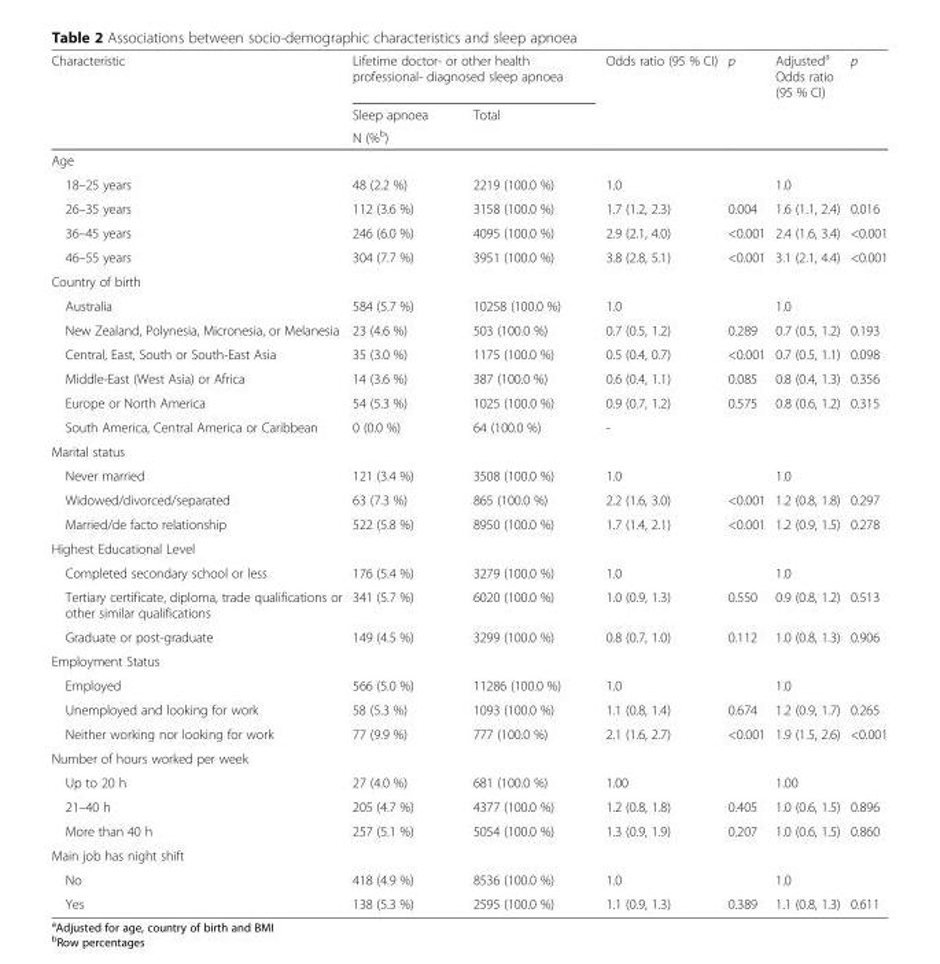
<table><thead><tr><td rowspan="3">Characteristic</td><td colspan="2">Lifetime doctor- or other health professional- diagnosed sleep apnoea</td><td rowspan="3">Odds ratio (95 % CI)</td><td rowspan="3">p</td><td rowspan="3">Adjusted<sup>a</sup> Odds ratio (95 % CI)</td><td rowspan="3">p</td></tr><tr><td>Sleep apnoea</td><td>Total</td></tr><tr><td colspan="2">N (%<sup>b</sup>)</td></tr></thead><tbody><tr><td colspan="7">Age</td></tr><tr><td>18–25 years</td><td>48 (2.2 %)</td><td>2219 (100.0 %)</td><td>1.0</td><td></td><td>1.0</td><td></td></tr><tr><td>26–35 years</td><td>112 (3.6 %)</td><td>3158 (100.0 %)</td><td>1.7 (1.2, 2.3)</td><td>0.004</td><td>1.6 (1.1, 2.4)</td><td>0.016</td></tr><tr><td>36–45 years</td><td>246 (6.0 %)</td><td>4095 (100.0 %)</td><td>2.9 (2.1, 4.0)</td><td>&lt;0.001</td><td>2.4 (1.6, 3.4)</td><td>&lt;0.001</td></tr><tr><td>46–55 years</td><td>304 (7.7 %)</td><td>3951 (100.0 %)</td><td>3.8 (2.8, 5.1)</td><td>&lt;0.001</td><td>3.1 (2.1, 4.4)</td><td>&lt;0.001</td></tr><tr><td colspan="7">Country of birth</td></tr><tr><td>Australia</td><td>584 (5.7 %)</td><td>10258 (100.0 %)</td><td>1.0</td><td></td><td>1.0</td><td></td></tr><tr><td>New Zealand, Polynesia, Micronesia, or Melanesia</td><td>23 (4.6 %)</td><td>503 (100.0 %)</td><td>0.7 (0.5, 1.2)</td><td>0.289</td><td>0.7 (0.5, 1.2)</td><td>0.193</td></tr><tr><td>Central, East, South or South-East Asia</td><td>35 (3.0 %)</td><td>1175 (100.0 %)</td><td>0.5 (0.4, 0.7)</td><td>&lt;0.001</td><td>0.7 (0.5, 1.1)</td><td>0.098</td></tr><tr><td>Middle-East (West Asia) or Africa</td><td>14 (3.6 %)</td><td>387 (100.0 %)</td><td>0.6 (0.4, 1.1)</td><td>0.085</td><td>0.8 (0.4, 1.3)</td><td>0.356</td></tr><tr><td>Europe or North America</td><td>54 (5.3 %)</td><td>1025 (100.0 %)</td><td>0.9 (0.7, 1.2)</td><td>0.575</td><td>0.8 (0.6, 1.2)</td><td>0.315</td></tr><tr><td>South America, Central America or Caribbean</td><td>0 (0.0 %)</td><td>64 (100.0 %)</td><td>-</td><td></td><td></td><td></td></tr><tr><td colspan="7">Marital status</td></tr><tr><td>Never married</td><td>121 (3.4 %)</td><td>3508 (100.0 %)</td><td>1.0</td><td></td><td>1.0</td><td></td></tr><tr><td>Widowed/divorced/separated</td><td>63 (7.3 %)</td><td>865 (100.0 %)</td><td>2.2 (1.6, 3.0)</td><td>&lt;0.001</td><td>1.2 (0.8, 1.8)</td><td>0.297</td></tr><tr><td>Married/de facto relationship</td><td>522 (5.8 %)</td><td>8950 (100.0 %)</td><td>1.7 (1.4, 2.1)</td><td>&lt;0.001</td><td>1.2 (0.9, 1.5)</td><td>0.278</td></tr><tr><td colspan="7">Highest Educational Level</td></tr><tr><td>Completed secondary school or less</td><td>176 (5.4 %)</td><td>3279 (100.0 %)</td><td>1.0</td><td></td><td>1.0</td><td></td></tr><tr><td>Tertiary certificate, diploma, trade qualifications or other similar qualifications</td><td>341 (5.7 %)</td><td>6020 (100.0 %)</td><td>1.0 (0.9, 1.3)</td><td>0.550</td><td>0.9 (0.8, 1.2)</td><td>0.513</td></tr><tr><td>Graduate or post-graduate</td><td>149 (4.5 %)</td><td>3299 (100.0 %)</td><td>0.8 (0.7, 1.0)</td><td>0.112</td><td>1.0 (0.8, 1.3)</td><td>0.906</td></tr><tr><td colspan="7">Employment Status</td></tr><tr><td>Employed</td><td>566 (5.0 %)</td><td>11286 (100.0 %)</td><td>1.0</td><td></td><td>1.0</td><td></td></tr><tr><td>Unemployed and looking for work</td><td>58 (5.3 %)</td><td>1093 (100.0 %)</td><td>1.1 (0.8, 1.4)</td><td>0.674</td><td>1.2 (0.9, 1.7)</td><td>0.265</td></tr><tr><td>Neither working nor looking for work</td><td>77 (9.9 %)</td><td>777 (100.0 %)</td><td>2.1 (1.6, 2.7)</td><td>&lt;0.001</td><td>1.9 (1.5, 2.6)</td><td>&lt;0.001</td></tr><tr><td colspan="7">Number of hours worked per week</td></tr><tr><td>Up to 20 h</td><td>27 (4.0 %)</td><td>681 (100.0 %)</td><td>1.00</td><td></td><td>1.00</td><td></td></tr><tr><td>21–40 h</td><td>205 (4.7 %)</td><td>4377 (100.0 %)</td><td>1.2 (0.8, 1.8)</td><td>0.405</td><td>1.0 (0.6, 1.5)</td><td>0.896</td></tr><tr><td>More than 40 h</td><td>257 (5.1 %)</td><td>5054 (100.0 %)</td><td>1.3 (0.9, 1.9)</td><td>0.207</td><td>1.0 (0.6, 1.5)</td><td>0.860</td></tr><tr><td colspan="7">Main job has night shift</td></tr><tr><td>No</td><td>418 (4.9 %)</td><td>8536 (100.0 %)</td><td>1.0</td><td></td><td>1.0</td><td></td></tr><tr><td>Yes</td><td>138 (5.3 %)</td><td>2595 (100.0 %)</td><td>1.1 (0.9, 1.3)</td><td>0.389</td><td>1.1 (0.8, 1.3)</td><td>0.611</td></tr></tbody></table>